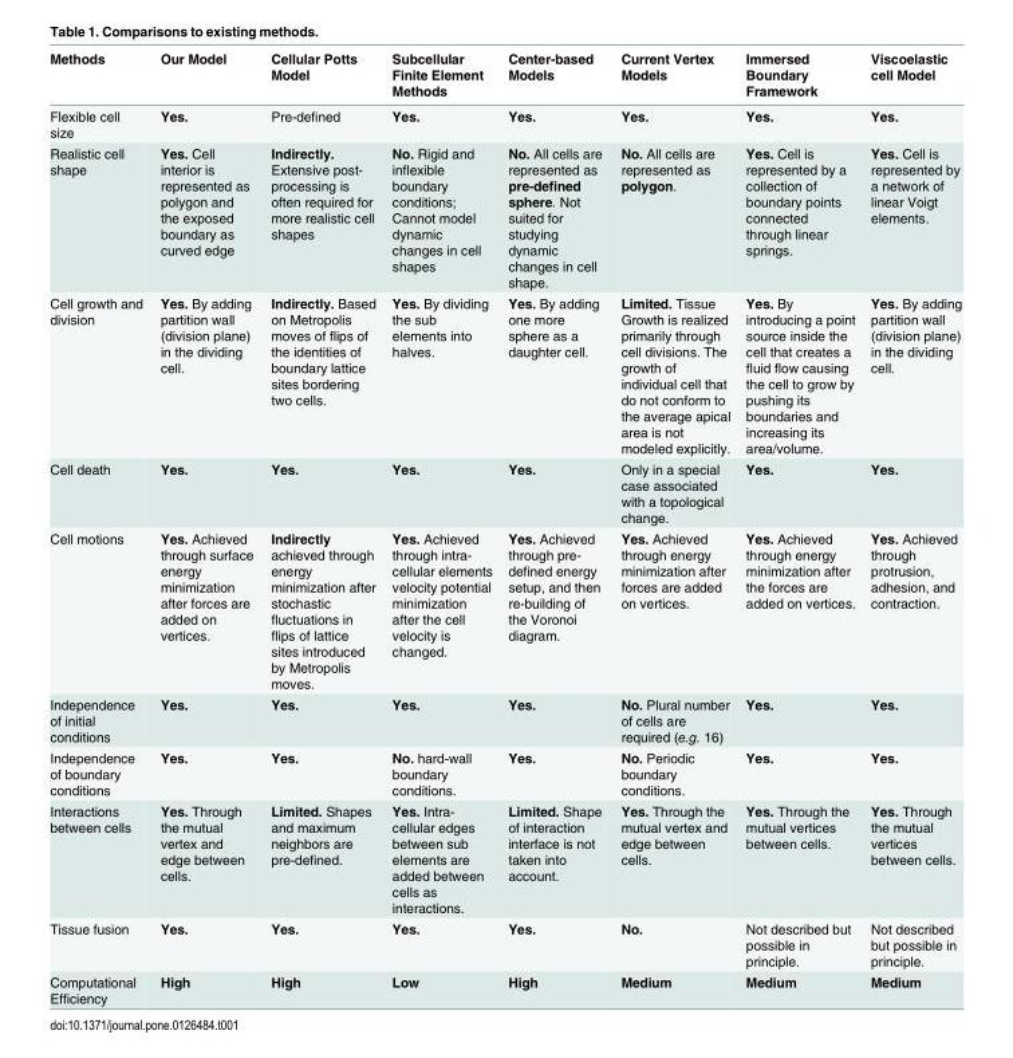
<table><thead><tr><td>Methods</td><td>Our Model</td><td>Cellular Potts Model</td><td>Subcellular Finite Element Methods</td><td>Center-based Models</td><td>Current Vertex Models</td><td>Immersed Boundary Framework</td><td>Viscoelastic cell Model</td></tr></thead><tbody><tr><td>Flexible cell size</td><td>Yes.</td><td>Pre-defined</td><td>Yes.</td><td>Yes.</td><td>Yes.</td><td>Yes.</td><td>Yes.</td></tr><tr><td>Realistic cell shape</td><td>Yes. Cell interior is represented as polygon and the exposed boundary as curved edge</td><td>Indirectly. Extensive post- processing is often required for more realistic cell shapes</td><td>No. Rigid and inflexible boundary conditions; Cannot model dynamic changes in cell shapes</td><td>No. All cells are represented as pre-defined sphere. Not suited for studying dynamic changes in cell shape.</td><td>No. All cells are represented as polygon.</td><td>Yes. Cell is represented by a collection of boundary points connected through linear springs.</td><td>Yes. Cell is represented by a network of linear Voigt elements.</td></tr><tr><td>Cell growth and division</td><td>Yes. By adding partition wall (division plane) in the dividing cell.</td><td>Indirectly. Based on Metropolis moves of flips of the identities of boundary lattice sites bordering two cells.</td><td>Yes. By dividing the sub elements into halves.</td><td>Yes. By adding one more sphere as a daughter cell.</td><td>Limited. Tissue Growth is realized primarily through cell divisions. The growth of individual cell that do not conform to the average apical area is not modeled explicitly.</td><td>Yes. By introducing a point source inside the cell that creates a fluid flow causing the cell to grow by pushing its boundaries and increasing its area/volume.</td><td>Yes. By adding partition wall (division plane) in the dividing cell.</td></tr><tr><td>Cell death</td><td>Yes.</td><td>Yes.</td><td>Yes.</td><td>Yes.</td><td>Only in a special case associated with a topological change.</td><td>Yes.</td><td>Yes.</td></tr><tr><td>Cell motions</td><td>Yes. Achieved through surface energy minimization after forces are added on vertices.</td><td>Indirectly achieved through energy minimization after stochastic fluctuations in flips of lattice sites introduced by Metropolis moves.</td><td>Yes. Achieved through intra- cellular elements velocity potential minimization after the cell velocity is changed.</td><td>Yes. Achieved through pre- defined energy setup, and then re-building of the Voronoi diagram.</td><td>Yes. Achieved through energy minimization after forces are added on vertices.</td><td>Yes. Achieved through energy minimization after the forces are added on vertices.</td><td>Yes. Achieved through protrusion, adhesion, and contraction.</td></tr><tr><td>Independence of initial conditions</td><td>Yes.</td><td>Yes.</td><td>Yes.</td><td>Yes.</td><td>No. Plural number of cells are required (e.g. 16)</td><td>Yes.</td><td>Yes.</td></tr><tr><td>Independence of boundary conditions</td><td>Yes.</td><td>Yes.</td><td>No. hard-wall boundary conditions.</td><td>Yes.</td><td>No. Periodic boundary conditions.</td><td>Yes.</td><td>Yes.</td></tr><tr><td>Interactions between cells</td><td>Yes. Through the mutual vertex and edge between cells.</td><td>Limited. Shapes and maximum neighbors are pre-defined.</td><td>Yes. Intra- cellular edges between sub elements are added between cells as interactions.</td><td>Limited. Shape of interaction interface is not taken into account.</td><td>Yes. Through the mutual vertex and edge between cells.</td><td>Yes. Through the mutual vertices between cells.</td><td>Yes. Through the mutual vertices between cells.</td></tr><tr><td>Tissue fusion</td><td>Yes.</td><td>Yes.</td><td>Yes.</td><td>Yes.</td><td>No.</td><td>Not described but possible in principle.</td><td>Not described but possible in principle.</td></tr><tr><td>Computational Efficiency</td><td>High</td><td>High</td><td>Low</td><td>High</td><td>Medium</td><td>Medium</td><td>Medium</td></tr></tbody></table>